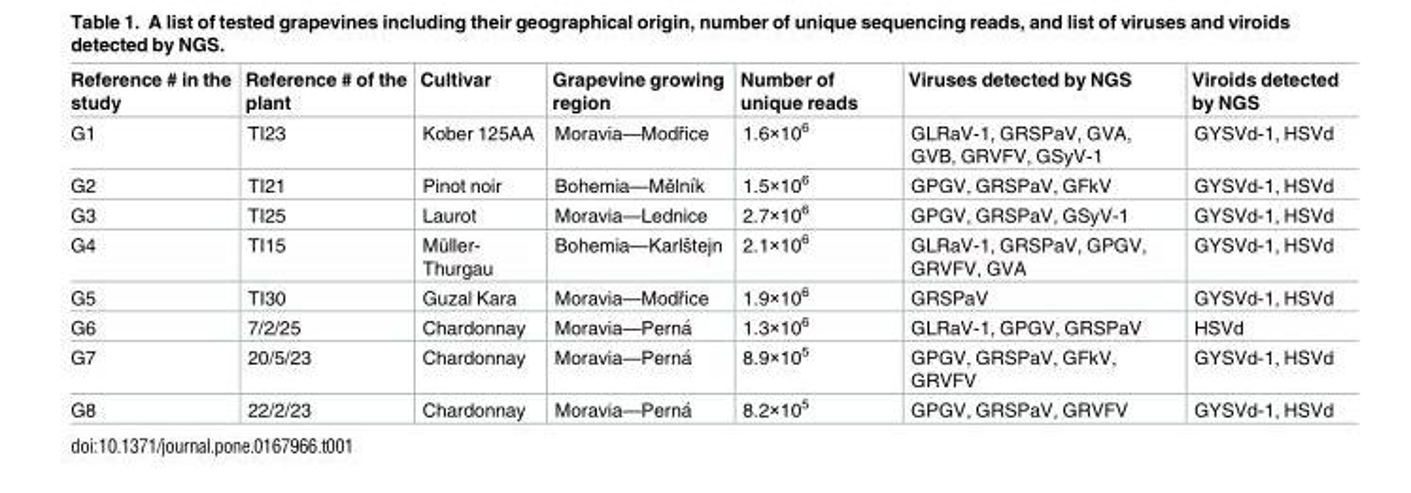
<table><thead><tr><td>Reference # in the study</td><td>Reference # of the plant</td><td>Cultivar</td><td>Grapevine growing region</td><td>Number of unique reads</td><td>Viruses detected by NGS</td><td>Viroids detected by NGS</td></tr></thead><tbody><tr><td>G1</td><td>TI23</td><td>Kober 125AA</td><td>Moravia—Modřice</td><td>1.6×10<sup>6</sup></td><td>GLRaV-1, GRSPaV, GVA, GVB, GRVFV, GSyV-1</td><td>GYSVd-1, HSVd</td></tr><tr><td>G2</td><td>TI21</td><td>Pinot noir</td><td>Bohemia—Mělnı´k</td><td>1.5×10<sup>6</sup></td><td>GPGV, GRSPaV, GFkV</td><td>GYSVd-1, HSVd</td></tr><tr><td>G3</td><td>TI25</td><td>Laurot</td><td>Moravia—Lednice</td><td>2.7×10<sup>6</sup></td><td>GPGV, GRSPaV, GSyV-1</td><td>GYSVd-1, HSVd</td></tr><tr><td>G4</td><td>TI15</td><td>Mu¨ller- Thurgau</td><td>Bohemia—Karlsˇtejn</td><td>2.1×10<sup>6</sup></td><td>GLRaV-1, GRSPaV, GPGV, GRVFV, GVA</td><td>GYSVd-1, HSVd</td></tr><tr><td>G5</td><td>TI30</td><td>Guzal Kara</td><td>Moravia—Modřice</td><td>1.9×10<sup>6</sup></td><td>GRSPaV</td><td>GYSVd-1, HSVd</td></tr><tr><td>G6</td><td>7/2/25</td><td>Chardonnay</td><td>Moravia—Perna´</td><td>1.3×10<sup>6</sup></td><td>GLRaV-1, GPGV, GRSPaV</td><td>HSVd</td></tr><tr><td>G7</td><td>20/5/23</td><td>Chardonnay</td><td>Moravia—Perna´</td><td>8.9×10<sup>5</sup></td><td>GPGV, GRSPaV, GFkV, GRVFV</td><td>GYSVd-1, HSVd</td></tr><tr><td>G8</td><td>22/2/23</td><td>Chardonnay</td><td>Moravia—Perna´</td><td>8.2×10<sup>5</sup></td><td>GPGV, GRSPaV, GRVFV</td><td>GYSVd-1, HSVd</td></tr></tbody></table>